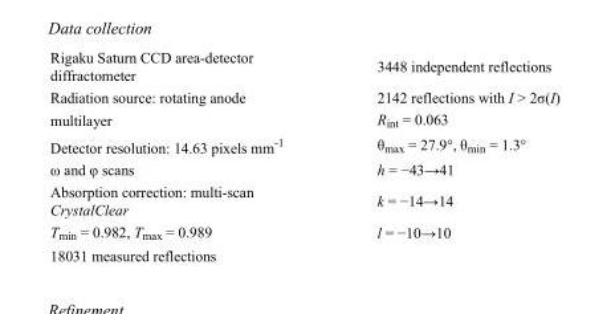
<table><tbody><tr><td>Rigaku Saturn CCD area-detector diffractometer</td><td>3448 independent reflections</td></tr><tr><td>Radiation source: rotating anode</td><td>2142 reflections with I &gt; 2σ(I)</td></tr><tr><td>multilayer</td><td>R<sub>int</sub> = 0.063</td></tr><tr><td>Detector resolution: 14.63 pixels mm<sup>-1</sup></td><td>θ<sub>max</sub> = 27.9°, θ<sub>min</sub> = 1.3°</td></tr><tr><td>ω and φ scans</td><td>h = −43→41</td></tr><tr><td>Absorption correction: multi-scan CrystalClear</td><td>k = −14→14</td></tr><tr><td>T<sub>min</sub> = 0.982, T<sub>max</sub> = 0.989</td><td>l = −10→10</td></tr><tr><td>18031 measured reflections</td><td></td></tr></tbody></table>